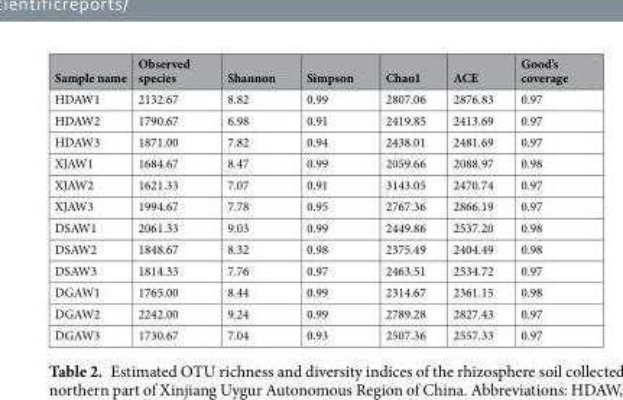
<table><thead><tr><td>Sample name</td><td>Observed species</td><td>Shannon</td><td>Simpson</td><td>Chao1</td><td>ACE</td><td>Good’s coverage</td></tr></thead><tbody><tr><td>HDAW1</td><td>2132.67</td><td>8.82</td><td>0.99</td><td>2807.06</td><td>2876.83</td><td>0.97</td></tr><tr><td>HDAW2</td><td>1790.67</td><td>6.98</td><td>0.91</td><td>2419.85</td><td>2413.69</td><td>0.97</td></tr><tr><td>HDAW3</td><td>1871.00</td><td>7.82</td><td>0.94</td><td>2438.01</td><td>2481.69</td><td>0.97</td></tr><tr><td>XJAW1</td><td>1684.67</td><td>8.47</td><td>0.99</td><td>2059.66</td><td>2088.97</td><td>0.98</td></tr><tr><td>XJAW2</td><td>1621.33</td><td>7.07</td><td>0.91</td><td>3143.05</td><td>2470.74</td><td>0.97</td></tr><tr><td>XJAW3</td><td>1994.67</td><td>7.78</td><td>0.95</td><td>2767.36</td><td>2866.19</td><td>0.97</td></tr><tr><td>DSAW1</td><td>2061.33</td><td>9.03</td><td>0.99</td><td>2449.86</td><td>2537.20</td><td>0.98</td></tr><tr><td>DSAW2</td><td>1848.67</td><td>8.32</td><td>0.98</td><td>2375.49</td><td>2404.49</td><td>0.98</td></tr><tr><td>DSAW3</td><td>1814.33</td><td>7.76</td><td>0.97</td><td>2463.51</td><td>2534.72</td><td>0.97</td></tr><tr><td>DGAW1</td><td>1765.00</td><td>8.44</td><td>0.99</td><td>2314.67</td><td>2361.15</td><td>0.98</td></tr><tr><td>DGAW2</td><td>2242.00</td><td>9.24</td><td>0.99</td><td>2789.28</td><td>2827.43</td><td>0.97</td></tr><tr><td>DGAW3</td><td>1730.67</td><td>7.04</td><td>0.93</td><td>2507.36</td><td>2557.33</td><td>0.97</td></tr></tbody></table>